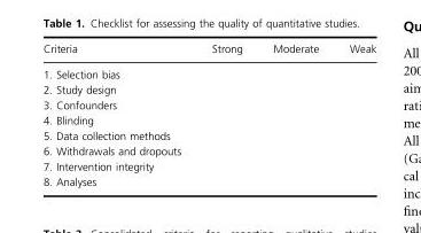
<table><thead><tr><td>Criteria</td><td>Strong</td><td>Moderate</td><td>Weak</td></tr></thead><tbody><tr><td colspan="4">1. Selection bias</td></tr><tr><td colspan="4">2. Study design</td></tr><tr><td colspan="4">3. Confounders</td></tr><tr><td colspan="4">4. Blinding</td></tr><tr><td colspan="4">5. Data collection methods</td></tr><tr><td colspan="4">6. Withdrawals and dropouts</td></tr><tr><td colspan="4">7. Intervention integrity</td></tr><tr><td>8. Analyses</td><td></td><td></td><td></td></tr></tbody></table>